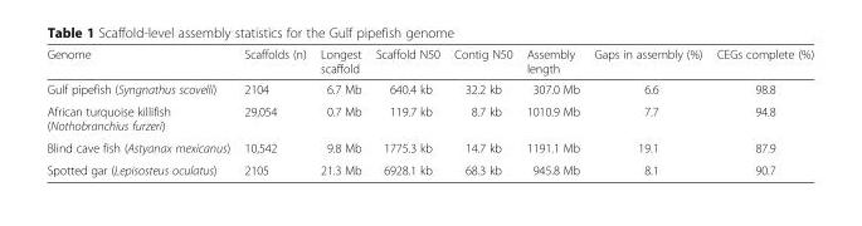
<table><thead><tr><td>Genome</td><td>Scaffolds (n)</td><td>Longest scaffold</td><td>Scaffold N50</td><td>Contig N50</td><td>Assembly length</td><td>Gaps in assembly (%)</td><td>CEGs complete (%)</td></tr></thead><tbody><tr><td>Gulf pipefish (Syngnathus scovelli)</td><td>2104</td><td>6.7 Mb</td><td>640.4 kb</td><td>32.2 kb</td><td>307.0 Mb</td><td>6.6</td><td>98.8</td></tr><tr><td>African turquoise killifish (Nothobranchius furzeri)</td><td>29,054</td><td>0.7 Mb</td><td>119.7 kb</td><td>8.7 kb</td><td>1010.9 Mb</td><td>7.7</td><td>94.8</td></tr><tr><td>Blind cave fish (Astyanax mexicanus)</td><td>10,542</td><td>9.8 Mb</td><td>1775.3 kb</td><td>14.7 kb</td><td>1191.1 Mb</td><td>19.1</td><td>87.9</td></tr><tr><td>Spotted gar (Lepisosteus oculatus)</td><td>2105</td><td>21.3 Mb</td><td>6928.1 kb</td><td>68.3 kb</td><td>945.8 Mb</td><td>8.1</td><td>90.7</td></tr></tbody></table>